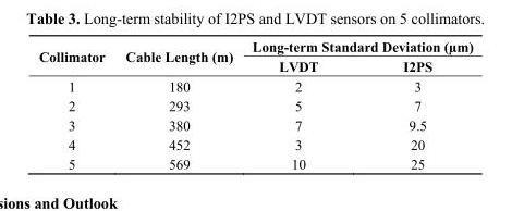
<table><thead><tr><td rowspan="2">Collimator</td><td rowspan="2">Cable Length (m)</td><td colspan="2">Long-term Standard Deviation (µm)</td></tr><tr><td>LVDT</td><td>I2PS</td></tr></thead><tbody><tr><td>1</td><td>180</td><td>2</td><td>3</td></tr><tr><td>2</td><td>293</td><td>5</td><td>7</td></tr><tr><td>3</td><td>380</td><td>7</td><td>9.5</td></tr><tr><td>4</td><td>452</td><td>3</td><td>20</td></tr><tr><td>5</td><td>569</td><td>10</td><td>25</td></tr></tbody></table>